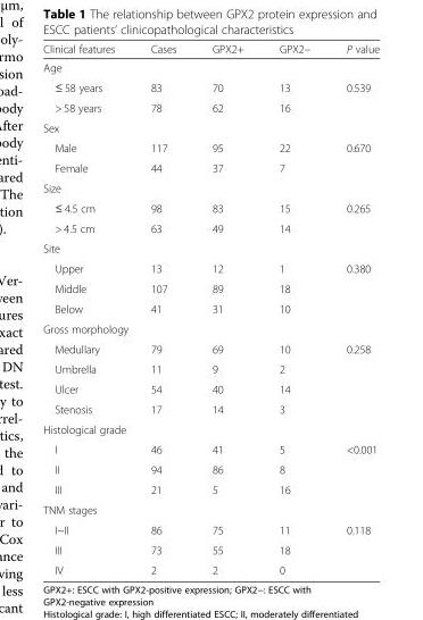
<table><thead><tr><td>Clinical features</td><td>Cases</td><td>GPX2+</td><td>GPX2−</td><td>P value</td></tr></thead><tbody><tr><td colspan="5">Age</td></tr><tr><td>≤ 58 years</td><td>83</td><td>70</td><td>13</td><td>0.539</td></tr><tr><td>&gt; 58 years</td><td>78</td><td>62</td><td>16</td><td></td></tr><tr><td colspan="5">Sex</td></tr><tr><td>Male</td><td>117</td><td>95</td><td>22</td><td>0.670</td></tr><tr><td>Female</td><td>44</td><td>37</td><td>7</td><td></td></tr><tr><td colspan="5">Size</td></tr><tr><td>≤ 4.5 cm</td><td>98</td><td>83</td><td>15</td><td>0.265</td></tr><tr><td>&gt; 4.5 cm</td><td>63</td><td>49</td><td>14</td><td></td></tr><tr><td colspan="5">Site</td></tr><tr><td>Upper</td><td>13</td><td>12</td><td>1</td><td>0.380</td></tr><tr><td>Middle</td><td>107</td><td>89</td><td>18</td><td></td></tr><tr><td>Below</td><td>41</td><td>31</td><td>10</td><td></td></tr><tr><td colspan="5">Gross morphology</td></tr><tr><td>Medullary</td><td>79</td><td>69</td><td>10</td><td>0.258</td></tr><tr><td>Umbrella</td><td>11</td><td>9</td><td>2</td><td></td></tr><tr><td>Ulcer</td><td>54</td><td>40</td><td>14</td><td></td></tr><tr><td>Stenosis</td><td>17</td><td>14</td><td>3</td><td></td></tr><tr><td colspan="5">Histological grade</td></tr><tr><td>I</td><td>46</td><td>41</td><td>5</td><td>&lt;0.001</td></tr><tr><td>II</td><td>94</td><td>86</td><td>8</td><td></td></tr><tr><td>III</td><td>21</td><td>5</td><td>16</td><td></td></tr><tr><td colspan="5">TNM stages</td></tr><tr><td>I~II</td><td>86</td><td>75</td><td>11</td><td>0.118</td></tr><tr><td>III</td><td>73</td><td>55</td><td>18</td><td></td></tr><tr><td>IV</td><td>2</td><td>2</td><td>0</td><td></td></tr></tbody></table>